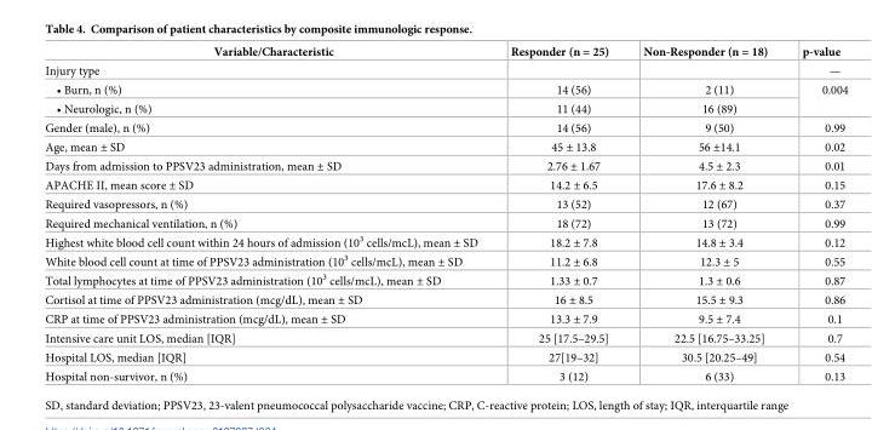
<table><thead><tr><td>Variable/Characteristic</td><td>Responder (n = 25)</td><td>Non-Responder (n = 18)</td><td>p-value</td></tr></thead><tbody><tr><td>Injury type</td><td></td><td></td><td>—</td></tr><tr><td>• Burn, n (%)</td><td>14 (56)</td><td>2 (11)</td><td rowspan="2">0.004</td></tr><tr><td>• Neurologic, n (%)</td><td>11 (44)</td><td>16 (89)</td></tr><tr><td>Gender (male), n (%)</td><td>14 (56)</td><td>9 (50)</td><td>0.99</td></tr><tr><td>Age, mean ± SD</td><td>45 ± 13.8</td><td>56 ±14.1</td><td>0.02</td></tr><tr><td>Days from admission to PPSV23 administration, mean ± SD</td><td>2.76 ± 1.67</td><td>4.5 ± 2.3</td><td>0.01</td></tr><tr><td>APACHE II, mean score ± SD</td><td>14.2 ± 6.5</td><td>17.6 ± 8.2</td><td>0.15</td></tr><tr><td>Required vasopressors, n (%)</td><td>13 (52)</td><td>12 (67)</td><td>0.37</td></tr><tr><td>Required mechanical ventilation, n (%)</td><td>18 (72)</td><td>13 (72)</td><td>0.99</td></tr><tr><td>Highest white blood cell count within 24 hours of admission (10<sup>3</sup> cells/mcL), mean ± SD</td><td>18.2 ± 7.8</td><td>14.8 ± 3.4</td><td>0.12</td></tr><tr><td>White blood cell count at time of PPSV23 administration (10<sup>3</sup> cells/mcL), mean ± SD</td><td>11.2 ± 6.8</td><td>12.3 ± 5</td><td>0.55</td></tr><tr><td>Total lymphocytes at time of PPSV23 administration (10<sup>3</sup> cells/mcL), mean ± SD</td><td>1.33 ± 0.7</td><td>1.3 ± 0.6</td><td>0.87</td></tr><tr><td>Cortisol at time of PPSV23 administration (mcg/dL), mean ± SD</td><td>16 ± 8.5</td><td>15.5 ± 9.3</td><td>0.86</td></tr><tr><td>CRP at time of PPSV23 administration (mcg/dL), mean ± SD</td><td>13.3 ± 7.9</td><td>9.5 ± 7.4</td><td>0.1</td></tr><tr><td>Intensive care unit LOS, median [IQR]</td><td>25 [17.5–29.5]</td><td>22.5 [16.75–33.25]</td><td>0.7</td></tr><tr><td>Hospital LOS, median [IQR]</td><td>27[19–32]</td><td>30.5 [20.25–49]</td><td>0.54</td></tr><tr><td>Hospital non-survivor, n (%)</td><td>3 (12)</td><td>6 (33)</td><td>0.13</td></tr></tbody></table>